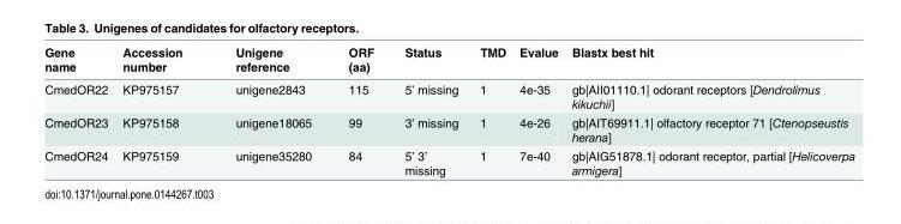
<table><thead><tr><td>Gene name</td><td>Accession number</td><td>Unigene reference</td><td>ORF (aa)</td><td>Status</td><td>TMD</td><td>Evalue</td><td>Blastx best hit</td></tr></thead><tbody><tr><td>CmedOR22</td><td>KP975157</td><td>unigene2843</td><td>115</td><td>5’ missing</td><td>1</td><td>4e-35</td><td>gb|AII01110.1| odorant receptors [Dendrolimus kikuchii]</td></tr><tr><td>CmedOR23</td><td>KP975158</td><td>unigene18065</td><td>99</td><td>3’ missing</td><td>1</td><td>4e-26</td><td>gb|AIT69911.1| olfactory receptor 71 [Ctenopseustis herana]</td></tr><tr><td>CmedOR24</td><td>KP975159</td><td>unigene35280</td><td>84</td><td>5’ 3’ missing</td><td>1</td><td>7e-40</td><td>gb|AIG51878.1| odorant receptor, partial [Helicoverpa armigera]</td></tr></tbody></table>